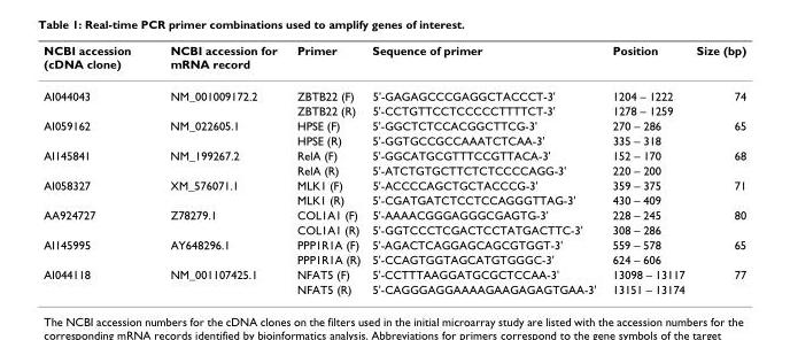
<table><thead><tr><td>NCBI accession (cDNA clone)</td><td>NCBI accession for mRNA record</td><td>Primer</td><td>Sequence of primer</td><td>Position</td><td>Size (bp)</td></tr></thead><tbody><tr><td rowspan="2">AI044043</td><td>NM_001009172.2</td><td>ZBTB22 (F)</td><td>5&#x27;-GAGAGCCCGAGGCTACCCT-3&#x27;</td><td>1204 – 1222</td><td>74</td></tr><tr><td></td><td>ZBTB22 (R)</td><td>5&#x27;-CCTGTTCCTCCCCCTTTTCT-3&#x27;</td><td>1278 – 1259</td><td></td></tr><tr><td rowspan="2">AI059162</td><td>NM_022605.1</td><td>HPSE (F)</td><td>5&#x27;-GGCTCTCCACGGCTTCG-3&#x27;</td><td>270 – 286</td><td>65</td></tr><tr><td></td><td>HPSE (R)</td><td>5&#x27;-GGTGCCGCCAAATCTCAA-3&#x27;</td><td>335 – 318</td><td></td></tr><tr><td rowspan="2">AI145841</td><td>NM_199267.2</td><td>RelA (F)</td><td>5&#x27;-GGCATGCGTTTCCGTTACA-3&#x27;</td><td>152 – 170</td><td>68</td></tr><tr><td></td><td>RelA (R)</td><td>5&#x27;-ATCTGTGCTTCTCTCCCCAGG-3&#x27;</td><td>220 – 200</td><td></td></tr><tr><td rowspan="2">AI058327</td><td>XM_576071.1</td><td>MLK1 (F)</td><td>5&#x27;-ACCCCAGCTGCTACCCG-3&#x27;</td><td>359 – 375</td><td>71</td></tr><tr><td></td><td>MLK1 (R)</td><td>5&#x27;-CGATGATCTCCTCCAGGGTTAG-3&#x27;</td><td>430 – 409</td><td></td></tr><tr><td rowspan="2">AA924727</td><td>Z78279.1</td><td>COL1A1 (F)</td><td>5&#x27;-AAAACGGGAGGGCGAGTG-3&#x27;</td><td>228 – 245</td><td>80</td></tr><tr><td></td><td>COL1A1 (R)</td><td>5&#x27;-GGTCCCTCGACTCCTATGACTTC-3&#x27;</td><td>308 – 286</td><td></td></tr><tr><td rowspan="2">AI145995</td><td>AY648296.1</td><td>PPP1R1A (F)</td><td>5&#x27;-AGACTCAGGAGCAGCGTGGT-3&#x27;</td><td>559 – 578</td><td>65</td></tr><tr><td></td><td>PPP1R1A (R)</td><td>5&#x27;-CCAGTGGTAGCATGTGGGC-3&#x27;</td><td>624 – 606</td><td></td></tr><tr><td rowspan="2">AI044118</td><td>NM_001107425.1</td><td>NFAT5 (F)</td><td>5&#x27;-CCTTTAAGGATGCGCTCCAA-3&#x27;</td><td>13098 – 13117</td><td>77</td></tr><tr><td></td><td>NFAT5 (R)</td><td>5&#x27;-CAGGGAGGAAAAGAAGAGAGTGAA-3&#x27;</td><td>13151 – 13174</td><td></td></tr></tbody></table>